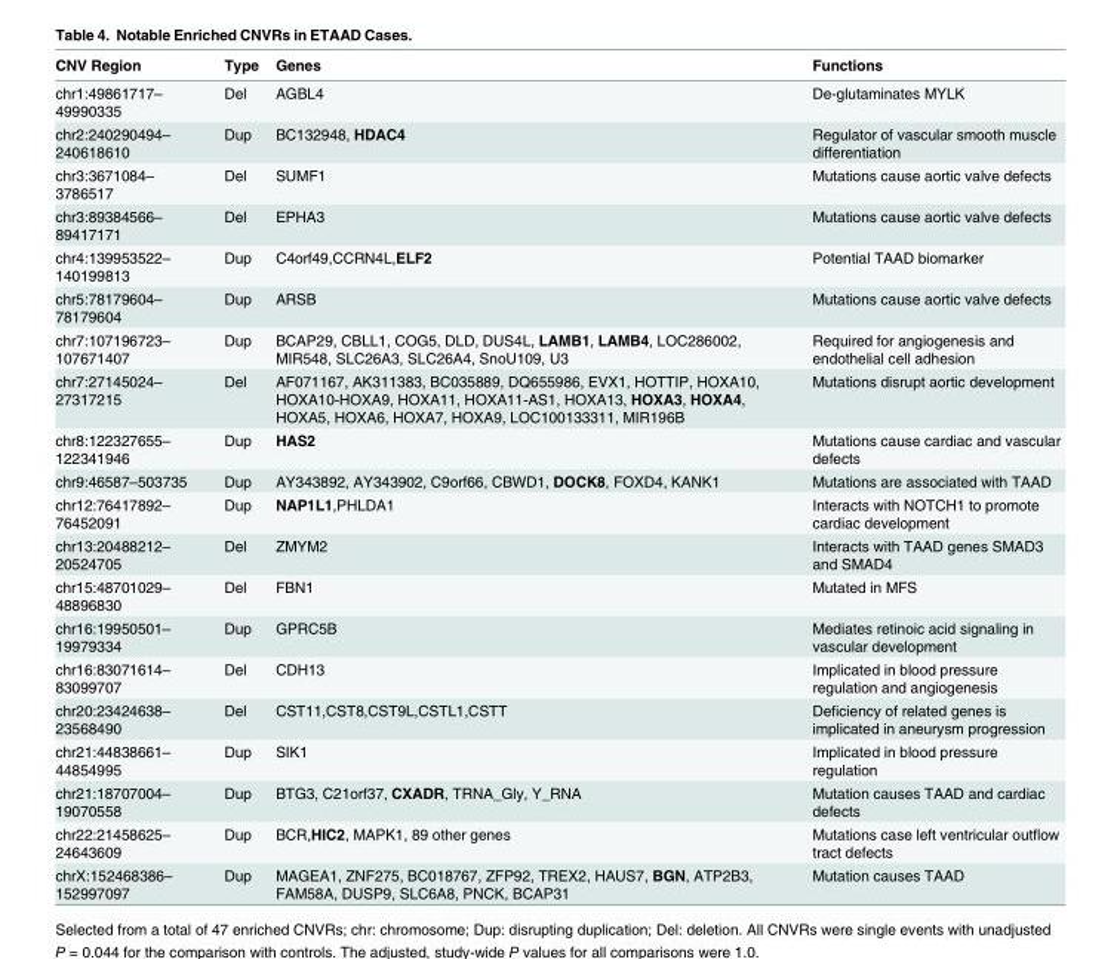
<table><thead><tr><td>CNV Region</td><td>Type</td><td>Genes</td><td>Functions</td></tr></thead><tbody><tr><td>chr1:49861717– 49990335</td><td>Del</td><td>AGBL4</td><td>De-glutaminates MYLK</td></tr><tr><td>chr2:240290494– 240618610</td><td>Dup</td><td>BC132948, HDAC4</td><td>Regulator of vascular smooth muscle differentiation</td></tr><tr><td>chr3:3671084– 3786517</td><td>Del</td><td>SUMF1</td><td>Mutations cause aortic valve defects</td></tr><tr><td>chr3:89384566– 89417171</td><td>Del</td><td>EPHA3</td><td>Mutations cause aortic valve defects</td></tr><tr><td>chr4:139953522– 140199813</td><td>Dup</td><td>C4orf49,CCRN4L,ELF2</td><td>Potential TAAD biomarker</td></tr><tr><td>chr5:78179604– 78179604</td><td>Dup</td><td>ARSB</td><td>Mutations cause aortic valve defects</td></tr><tr><td>chr7:107196723– 107671407</td><td>Dup</td><td>BCAP29, CBLL1, COG5, DLD, DUS4L, LAMB1, LAMB4, LOC286002, MIR548, SLC26A3, SLC26A4, SnoU109, U3</td><td>Required for angiogenesis and endothelial cell adhesion</td></tr><tr><td>chr7:27145024– 27317215</td><td>Del</td><td>AF071167, AK311383, BC035889, DQ655986, EVX1, HOTTIP, HOXA10, HOXA10-HOXA9, HOXA11, HOXA11-AS1, HOXA13, HOXA3, HOXA4, HOXA5, HOXA6, HOXA7, HOXA9, LOC100133311, MIR196B</td><td>Mutations disrupt aortic development</td></tr><tr><td>chr8:122327655– 122341946</td><td>Dup</td><td>HAS2</td><td>Mutations cause cardiac and vascular defects</td></tr><tr><td>chr9:46587–503735</td><td>Dup</td><td>AY343892, AY343902, C9orf66, CBWD1, DOCK8, FOXD4, KANK1</td><td>Mutations are associated with TAAD</td></tr><tr><td>chr12:76417892– 76452091</td><td>Dup</td><td>NAP1L1,PHLDA1</td><td>Interacts with NOTCH1 to promote cardiac development</td></tr><tr><td>chr13:20488212– 20524705</td><td>Del</td><td>ZMYM2</td><td>Interacts with TAAD genes SMAD3 and SMAD4</td></tr><tr><td>chr15:48701029– 48896830</td><td>Del</td><td>FBN1</td><td>Mutated in MFS</td></tr><tr><td>chr16:19950501– 19979334</td><td>Dup</td><td>GPRC5B</td><td>Mediates retinoic acid signaling in vascular development</td></tr><tr><td>chr16:83071614– 83099707</td><td>Del</td><td>CDH13</td><td>Implicated in blood pressure regulation and angiogenesis</td></tr><tr><td>chr20:23424638– 23568490</td><td>Del</td><td>CST11,CST8,CST9L,CSTL1,CSTT</td><td>Deficiency of related genes is implicated in aneurysm progression</td></tr><tr><td>chr21:44838661– 44854995</td><td>Dup</td><td>SIK1</td><td>Implicated in blood pressure regulation</td></tr><tr><td>chr21:18707004– 19070558</td><td>Dup</td><td>BTG3, C21orf37, CXADR, TRNA_Gly, Y_RNA</td><td>Mutation causes TAAD and cardiac defects</td></tr><tr><td>chr22:21458625– 24643609</td><td>Dup</td><td>BCR,HIC2, MAPK1, 89 other genes</td><td>Mutations case left ventricular outflow tract defects</td></tr><tr><td>chrX:152468386– 152997097</td><td>Dup</td><td>MAGEA1, ZNF275, BC018767, ZFP92, TREX2, HAUS7, BGN, ATP2B3, FAM58A, DUSP9, SLC6A8, PNCK, BCAP31</td><td>Mutation causes TAAD</td></tr></tbody></table>